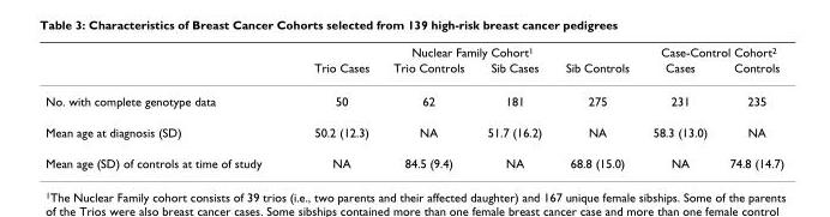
<table><thead><tr><td rowspan="2"></td><td colspan="4">Nuclear Family Cohort1</td><td colspan="2">Case-Control Cohort2</td></tr><tr><td>Trio Cases</td><td>Trio Controls</td><td>Sib Cases</td><td>Sib Controls</td><td>Cases</td><td>Controls</td></tr></thead><tbody><tr><td>No. with complete genotype data</td><td>50</td><td>62</td><td>181</td><td>275</td><td>231</td><td>235</td></tr><tr><td>Mean age at diagnosis (SD)</td><td>50.2 (12.3)</td><td>NA</td><td>51.7 (16.2)</td><td>NA</td><td>58.3 (13.0)</td><td>NA</td></tr><tr><td>Mean age (SD) of controls at time of study</td><td>NA</td><td>84.5 (9.4)</td><td>NA</td><td>68.8 (15.0)</td><td>NA</td><td>74.8 (14.7)</td></tr></tbody></table>